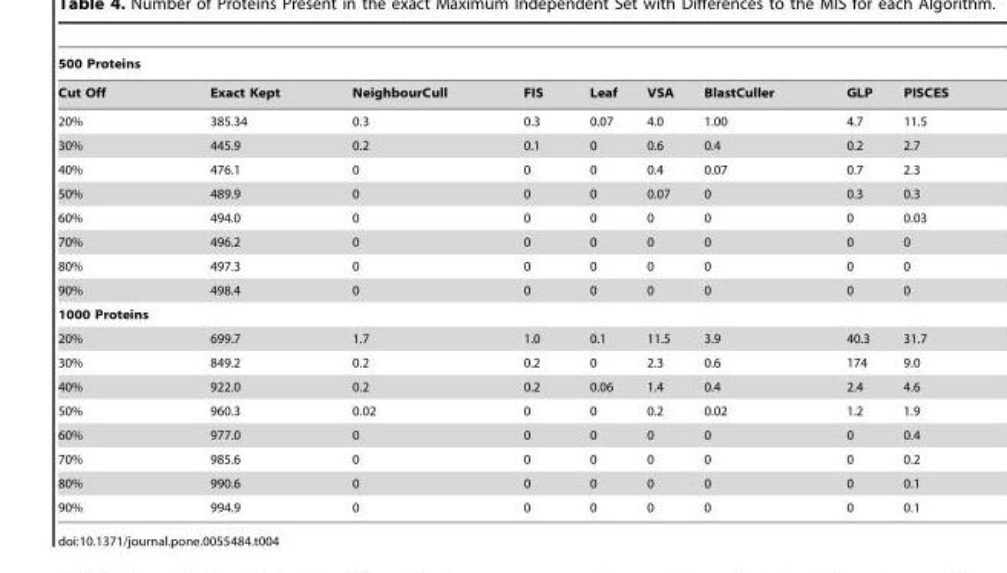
<table><thead><tr><td colspan="9">500 Proteins</td></tr><tr><td>Cut Off</td><td>Exact Kept</td><td>NeighbourCull</td><td>FIS</td><td>Leaf</td><td>VSA</td><td>BlastCuller</td><td>GLP</td><td>PISCES</td></tr></thead><tbody><tr><td>20%</td><td>385.34</td><td>0.3</td><td>0.3</td><td>0.07</td><td>4.0</td><td>1.00</td><td>4.7</td><td>11.5</td></tr><tr><td>30%</td><td>445.9</td><td>0.2</td><td>0.1</td><td>0</td><td>0.6</td><td>0.4</td><td>0.2</td><td>2.7</td></tr><tr><td>40%</td><td>476.1</td><td>0</td><td>0</td><td>0</td><td>0.4</td><td>0.07</td><td>0.7</td><td>2.3</td></tr><tr><td>50%</td><td>489.9</td><td>0</td><td>0</td><td>0</td><td>0.07</td><td>0</td><td>0.3</td><td>0.3</td></tr><tr><td>60%</td><td>494.0</td><td>0</td><td>0</td><td>0</td><td>0</td><td>0</td><td>0</td><td>0.03</td></tr><tr><td>70%</td><td>496.2</td><td>0</td><td>0</td><td>0</td><td>0</td><td>0</td><td>0</td><td>0</td></tr><tr><td>80%</td><td>497.3</td><td>0</td><td>0</td><td>0</td><td>0</td><td>0</td><td>0</td><td>0</td></tr><tr><td>90%</td><td>498.4</td><td>0</td><td>0</td><td>0</td><td>0</td><td>0</td><td>0</td><td>0</td></tr><tr><td colspan="9">1000 Proteins</td></tr><tr><td>20%</td><td>699.7</td><td>1.7</td><td>1.0</td><td>0.1</td><td>11.5</td><td>3.9</td><td>40.3</td><td>31.7</td></tr><tr><td>30%</td><td>849.2</td><td>0.2</td><td>0.2</td><td>0</td><td>2.3</td><td>0.6</td><td>174</td><td>9.0</td></tr><tr><td>40%</td><td>922.0</td><td>0.2</td><td>0.2</td><td>0.06</td><td>1.4</td><td>0.4</td><td>2.4</td><td>4.6</td></tr><tr><td>50%</td><td>960.3</td><td>0.02</td><td>0</td><td>0</td><td>0.2</td><td>0.02</td><td>1.2</td><td>1.9</td></tr><tr><td>60%</td><td>977.0</td><td>0</td><td>0</td><td>0</td><td>0</td><td>0</td><td>0</td><td>0.4</td></tr><tr><td>70%</td><td>985.6</td><td>0</td><td>0</td><td>0</td><td>0</td><td>0</td><td>0</td><td>0.2</td></tr><tr><td>80%</td><td>990.6</td><td>0</td><td>0</td><td>0</td><td>0</td><td>0</td><td>0</td><td>0.1</td></tr><tr><td>90%</td><td>994.9</td><td>0</td><td>0</td><td>0</td><td>0</td><td>0</td><td>0</td><td>0.1</td></tr></tbody></table>